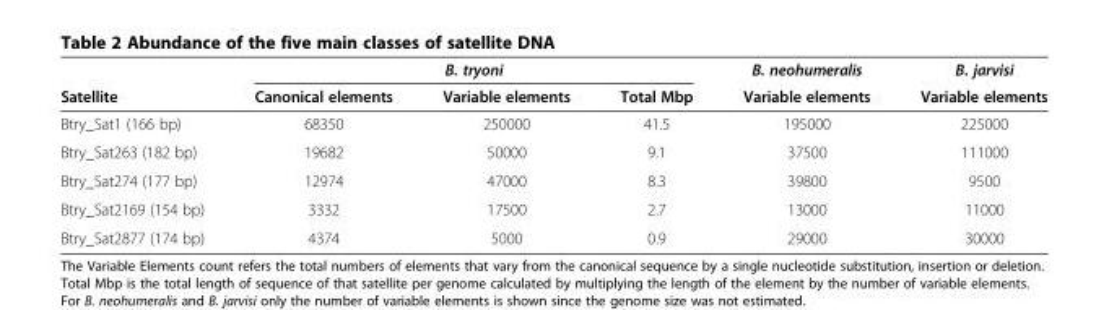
<table><thead><tr><td rowspan="2">Satellite</td><td colspan="3">B. tryoni</td><td rowspan="2">B. neohumeralis Variable elements</td><td rowspan="2">B. jarvisi Variable elements</td></tr><tr><td>Canonical elements</td><td>Variable elements</td><td>Total Mbp</td></tr></thead><tbody><tr><td>Btry_Sat1 (166 bp)</td><td>68350</td><td>250000</td><td>41.5</td><td>195000</td><td>225000</td></tr><tr><td>Btry_Sat263 (182 bp)</td><td>19682</td><td>50000</td><td>9.1</td><td>37500</td><td>111000</td></tr><tr><td>Btry_Sat274 (177 bp)</td><td>12974</td><td>47000</td><td>8.3</td><td>39800</td><td>9500</td></tr><tr><td>Btry_Sat2169 (154 bp)</td><td>3332</td><td>17500</td><td>2.7</td><td>13000</td><td>11000</td></tr><tr><td>Btry_Sat2877 (174 bp)</td><td>4374</td><td>5000</td><td>0.9</td><td>29000</td><td>30000</td></tr></tbody></table>